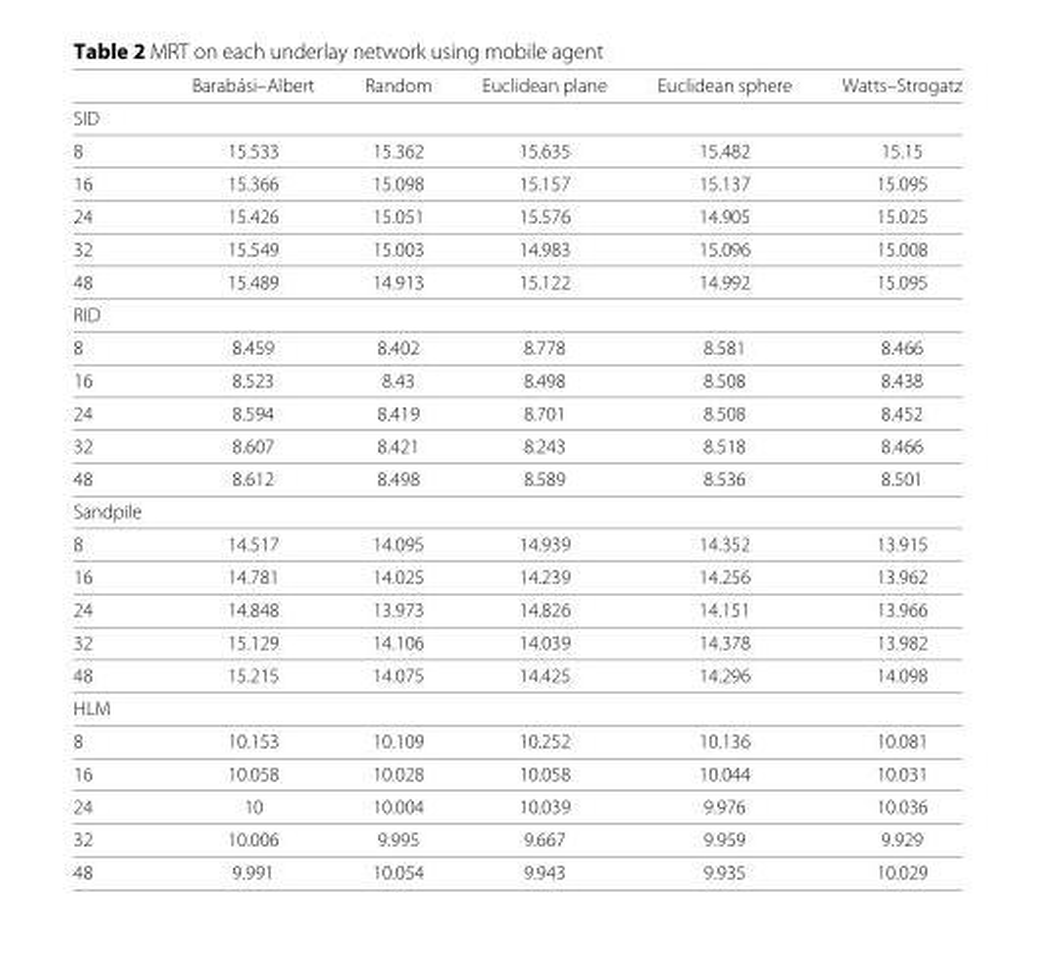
<table><thead><tr><td></td><td>Barabási–Albert</td><td>Random</td><td>Euclidean plane</td><td>Euclidean sphere</td><td>Watts–Strogatz</td></tr></thead><tbody><tr><td colspan="6">SID</td></tr><tr><td>8</td><td>15.533</td><td>15.362</td><td>15.635</td><td>15.482</td><td>15.15</td></tr><tr><td>16</td><td>15.366</td><td>15.098</td><td>15.157</td><td>15.137</td><td>15.095</td></tr><tr><td>24</td><td>15.426</td><td>15.051</td><td>15.576</td><td>14.905</td><td>15.025</td></tr><tr><td>32</td><td>15.549</td><td>15.003</td><td>14.983</td><td>15.096</td><td>15.008</td></tr><tr><td>48</td><td>15.489</td><td>14.913</td><td>15.122</td><td>14.992</td><td>15.095</td></tr><tr><td colspan="6">RID</td></tr><tr><td>8</td><td>8.459</td><td>8.402</td><td>8.778</td><td>8.581</td><td>8.466</td></tr><tr><td>16</td><td>8.523</td><td>8.43</td><td>8.498</td><td>8.508</td><td>8.438</td></tr><tr><td>24</td><td>8.594</td><td>8.419</td><td>8.701</td><td>8.508</td><td>8.452</td></tr><tr><td>32</td><td>8.607</td><td>8.421</td><td>8.243</td><td>8.518</td><td>8.466</td></tr><tr><td>48</td><td>8.612</td><td>8.498</td><td>8.589</td><td>8.536</td><td>8.501</td></tr><tr><td colspan="6">Sandpile</td></tr><tr><td>8</td><td>14.517</td><td>14.095</td><td>14.939</td><td>14.352</td><td>13.915</td></tr><tr><td>16</td><td>14.781</td><td>14.025</td><td>14.239</td><td>14.256</td><td>13.962</td></tr><tr><td>24</td><td>14.848</td><td>13.973</td><td>14.826</td><td>14.151</td><td>13.966</td></tr><tr><td>32</td><td>15.129</td><td>14.106</td><td>14.039</td><td>14.378</td><td>13.982</td></tr><tr><td>48</td><td>15.215</td><td>14.075</td><td>14.425</td><td>14.296</td><td>14.098</td></tr><tr><td colspan="6">HLM</td></tr><tr><td>8</td><td>10.153</td><td>10.109</td><td>10.252</td><td>10.136</td><td>10.081</td></tr><tr><td>16</td><td>10.058</td><td>10.028</td><td>10.058</td><td>10.044</td><td>10.031</td></tr><tr><td>24</td><td>10</td><td>10.004</td><td>10.039</td><td>9.976</td><td>10.036</td></tr><tr><td>32</td><td>10.006</td><td>9.995</td><td>9.667</td><td>9.959</td><td>9.929</td></tr><tr><td>48</td><td>9.991</td><td>10.054</td><td>9.943</td><td>9.935</td><td>10.029</td></tr></tbody></table>